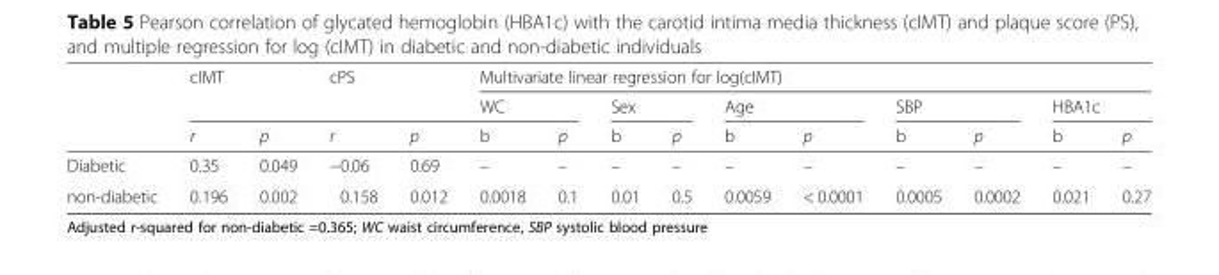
<table><thead><tr><td rowspan="3"></td><td rowspan="2" colspan="2">cIMT</td><td rowspan="2" colspan="2">cPS</td><td colspan="10">Multivariate linear regression for log(cIMT)</td></tr><tr><td colspan="2">WC</td><td colspan="2">Sex</td><td colspan="2">Age</td><td colspan="2">SBP</td><td colspan="2">HBA1c</td></tr><tr><td>r</td><td>p</td><td>r</td><td>p</td><td>b</td><td>p</td><td>b</td><td>p</td><td>b</td><td>p</td><td>b</td><td>p</td><td>b</td><td>p</td></tr></thead><tbody><tr><td>Diabetic</td><td>0.35</td><td>0.049</td><td>−0.06</td><td>0.69</td><td>–</td><td>–</td><td>–</td><td>–</td><td>–</td><td>–</td><td>–</td><td>–</td><td>–</td><td>–</td></tr><tr><td>non-diabetic</td><td>0.196</td><td>0.002</td><td>0.158</td><td>0.012</td><td>0.0018</td><td>0.1</td><td>0.01</td><td>0.5</td><td>0.0059</td><td>&lt; 0.0001</td><td>0.0005</td><td>0.0002</td><td>0.021</td><td>0.27</td></tr></tbody></table>